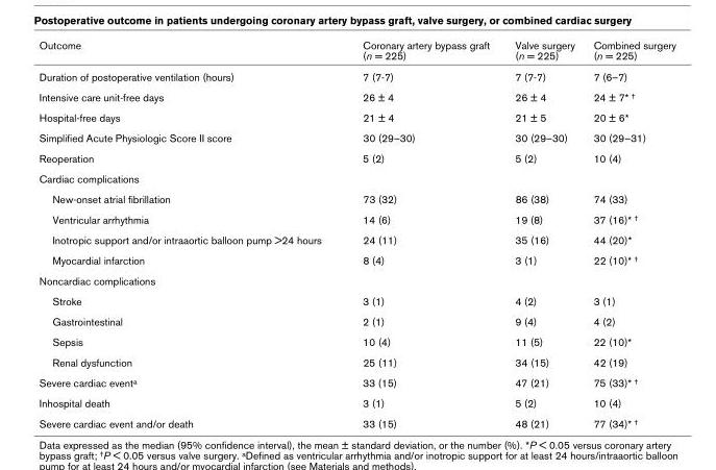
<table><thead><tr><td>Outcome</td><td>Coronary artery bypass graft (n = 225)</td><td>Valve surgery (n = 225)</td><td>Combined surgery (n = 225)</td></tr></thead><tbody><tr><td>Duration of postoperative ventilation (hours)</td><td>7 (7-7)</td><td>7 (7-7)</td><td>7 (6–7)</td></tr><tr><td>Intensive care unit-free days</td><td>26 ± 4</td><td>26 ± 4</td><td>24 ± 7* <sup>†</sup></td></tr><tr><td>Hospital-free days</td><td>21 ± 4</td><td>21 ± 5</td><td>20 ± 6*</td></tr><tr><td>Simplified Acute Physiologic Score II score</td><td>30 (29–30)</td><td>30 (29–30)</td><td>30 (29–31)</td></tr><tr><td>Reoperation</td><td>5 (2)</td><td>5 (2)</td><td>10 (4)</td></tr><tr><td colspan="4">Cardiac complications</td></tr><tr><td>New-onset atrial fibrillation</td><td>73 (32)</td><td>86 (38)</td><td>74 (33)</td></tr><tr><td>Ventricular arrhythmia</td><td>14 (6)</td><td>19 (8)</td><td>37 (16)* <sup>†</sup></td></tr><tr><td>Inotropic support and/or intraaortic balloon pump &gt;24 hours</td><td>24 (11)</td><td>35 (16)</td><td>44 (20)*</td></tr><tr><td>Myocardial infarction</td><td>8 (4)</td><td>3 (1)</td><td>22 (10)* <sup>†</sup></td></tr><tr><td colspan="4">Noncardiac complications</td></tr><tr><td>Stroke</td><td>3 (1)</td><td>4 (2)</td><td>3 (1)</td></tr><tr><td>Gastrointestinal</td><td>2 (1)</td><td>9 (4)</td><td>4 (2)</td></tr><tr><td>Sepsis</td><td>10 (4)</td><td>11 (5)</td><td>22 (10)*</td></tr><tr><td>Renal dysfunction</td><td>25 (11)</td><td>34 (15)</td><td>42 (19)</td></tr><tr><td>Severe cardiac event<sup>a</sup></td><td>33 (15)</td><td>47 (21)</td><td>75 (33)* <sup>†</sup></td></tr><tr><td>Inhospital death</td><td>3 (1)</td><td>5 (2)</td><td>10 (4)</td></tr><tr><td>Severe cardiac event and/or death</td><td>33 (15)</td><td>48 (21)</td><td>77 (34)* <sup>†</sup></td></tr></tbody></table>